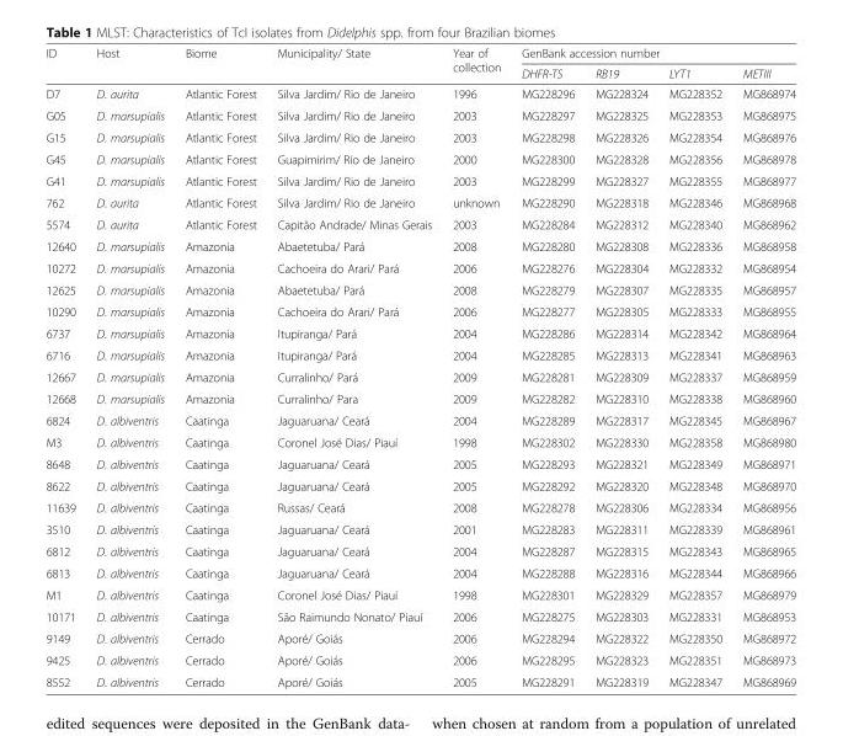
<table><thead><tr><td rowspan="2">ID</td><td rowspan="2">Host</td><td rowspan="2">Biome</td><td rowspan="2">Municipality/ State</td><td rowspan="2">Year of collection</td><td colspan="4">GenBank accession number</td></tr><tr><td>DHFR-TS</td><td>RB19</td><td>LYT1</td><td>METIII</td></tr></thead><tbody><tr><td>D7</td><td>D. aurita</td><td>Atlantic Forest</td><td>Silva Jardim/ Rio de Janeiro</td><td>1996</td><td>MG228296</td><td>MG228324</td><td>MG228352</td><td>MG868974</td></tr><tr><td>G05</td><td>D. marsupialis</td><td>Atlantic Forest</td><td>Silva Jardim/ Rio de Janeiro</td><td>2003</td><td>MG228297</td><td>MG228325</td><td>MG228353</td><td>MG868975</td></tr><tr><td>G15</td><td>D. marsupialis</td><td>Atlantic Forest</td><td>Silva Jardim/ Rio de Janeiro</td><td>2003</td><td>MG228298</td><td>MG228326</td><td>MG228354</td><td>MG868976</td></tr><tr><td>G45</td><td>D. marsupialis</td><td>Atlantic Forest</td><td>Guapimirim/ Rio de Janeiro</td><td>2000</td><td>MG228300</td><td>MG228328</td><td>MG228356</td><td>MG868978</td></tr><tr><td>G41</td><td>D. marsupialis</td><td>Atlantic Forest</td><td>Silva Jardim/ Rio de Janeiro</td><td>2003</td><td>MG228299</td><td>MG228327</td><td>MG228355</td><td>MG868977</td></tr><tr><td>762</td><td>D. aurita</td><td>Atlantic Forest</td><td>Silva Jardim/ Rio de Janeiro</td><td>unknown</td><td>MG228290</td><td>MG228318</td><td>MG228346</td><td>MG868968</td></tr><tr><td>5574</td><td>D. aurita</td><td>Atlantic Forest</td><td>Capitão Andrade/ Minas Gerais</td><td>2003</td><td>MG228284</td><td>MG228312</td><td>MG228340</td><td>MG868962</td></tr><tr><td>12640</td><td>D. marsupialis</td><td>Amazonia</td><td>Abaetetuba/ Pará</td><td>2008</td><td>MG228280</td><td>MG228308</td><td>MG228336</td><td>MG868958</td></tr><tr><td>10272</td><td>D. marsupialis</td><td>Amazonia</td><td>Cachoeira do Arari/ Pará</td><td>2006</td><td>MG228276</td><td>MG228304</td><td>MG228332</td><td>MG868954</td></tr><tr><td>12625</td><td>D. marsupialis</td><td>Amazonia</td><td>Abaetetuba/ Pará</td><td>2008</td><td>MG228279</td><td>MG228307</td><td>MG228335</td><td>MG868957</td></tr><tr><td>10290</td><td>D. marsupialis</td><td>Amazonia</td><td>Cachoeira do Arari/ Pará</td><td>2006</td><td>MG228277</td><td>MG228305</td><td>MG228333</td><td>MG868955</td></tr><tr><td>6737</td><td>D. marsupialis</td><td>Amazonia</td><td>Itupiranga/ Pará</td><td>2004</td><td>MG228286</td><td>MG228314</td><td>MG228342</td><td>MG868964</td></tr><tr><td>6716</td><td>D. marsupialis</td><td>Amazonia</td><td>Itupiranga/ Pará</td><td>2004</td><td>MG228285</td><td>MG228313</td><td>MG228341</td><td>MG868963</td></tr><tr><td>12667</td><td>D. marsupialis</td><td>Amazonia</td><td>Curralinho/ Pará</td><td>2009</td><td>MG228281</td><td>MG228309</td><td>MG228337</td><td>MG868959</td></tr><tr><td>12668</td><td>D. marsupialis</td><td>Amazonia</td><td>Curralinho/ Para</td><td>2009</td><td>MG228282</td><td>MG228310</td><td>MG228338</td><td>MG868960</td></tr><tr><td>6824</td><td>D. albiventris</td><td>Caatinga</td><td>Jaguaruana/ Ceará</td><td>2004</td><td>MG228289</td><td>MG228317</td><td>MG228345</td><td>MG868967</td></tr><tr><td>M3</td><td>D. albiventris</td><td>Caatinga</td><td>Coronel José Dias/ Piauí</td><td>1998</td><td>MG228302</td><td>MG228330</td><td>MG228358</td><td>MG868980</td></tr><tr><td>8648</td><td>D. albiventris</td><td>Caatinga</td><td>Jaguaruana/ Ceará</td><td>2005</td><td>MG228293</td><td>MG228321</td><td>MG228349</td><td>MG868971</td></tr><tr><td>8622</td><td>D. albiventris</td><td>Caatinga</td><td>Jaguaruana/ Ceará</td><td>2005</td><td>MG228292</td><td>MG228320</td><td>MG228348</td><td>MG868970</td></tr><tr><td>11639</td><td>D. albiventris</td><td>Caatinga</td><td>Russas/ Ceará</td><td>2008</td><td>MG228278</td><td>MG228306</td><td>MG228334</td><td>MG868956</td></tr><tr><td>3510</td><td>D. albiventris</td><td>Caatinga</td><td>Jaguaruana/ Ceará</td><td>2001</td><td>MG228283</td><td>MG228311</td><td>MG228339</td><td>MG868961</td></tr><tr><td>6812</td><td>D. albiventris</td><td>Caatinga</td><td>Jaguaruana/ Ceará</td><td>2004</td><td>MG228287</td><td>MG228315</td><td>MG228343</td><td>MG868965</td></tr><tr><td>6813</td><td>D. albiventris</td><td>Caatinga</td><td>Jaguaruana/ Ceará</td><td>2004</td><td>MG228288</td><td>MG228316</td><td>MG228344</td><td>MG868966</td></tr><tr><td>M1</td><td>D. albiventris</td><td>Caatinga</td><td>Coronel José Dias/ Piauí</td><td>1998</td><td>MG228301</td><td>MG228329</td><td>MG228357</td><td>MG868979</td></tr><tr><td>10171</td><td>D. albiventris</td><td>Caatinga</td><td>São Raimundo Nonato/ Piauí</td><td>2006</td><td>MG228275</td><td>MG228303</td><td>MG228331</td><td>MG868953</td></tr><tr><td>9149</td><td>D. albiventris</td><td>Cerrado</td><td>Aporé/ Goiás</td><td>2006</td><td>MG228294</td><td>MG228322</td><td>MG228350</td><td>MG868972</td></tr><tr><td>9425</td><td>D. albiventris</td><td>Cerrado</td><td>Aporé/ Goiás</td><td>2006</td><td>MG228295</td><td>MG228323</td><td>MG228351</td><td>MG868973</td></tr><tr><td>8552</td><td>D. albiventris</td><td>Cerrado</td><td>Aporé/ Goiás</td><td>2005</td><td>MG228291</td><td>MG228319</td><td>MG228347</td><td>MG868969</td></tr></tbody></table>